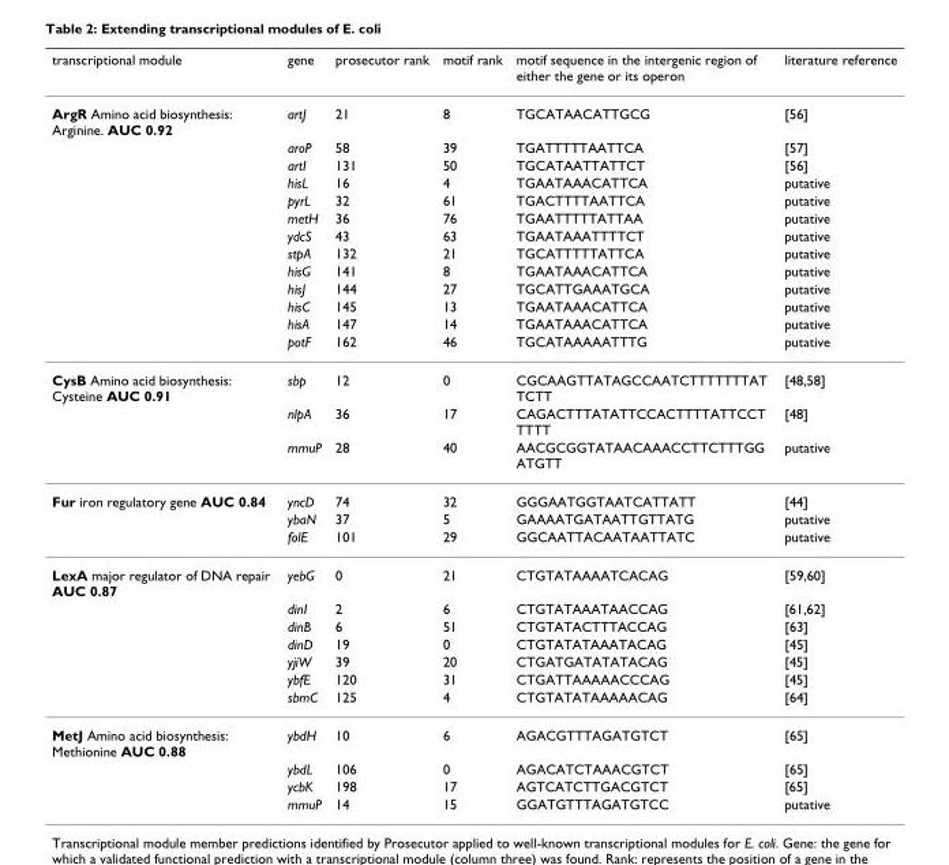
<table><thead><tr><td>transcriptional module</td><td>gene</td><td>prosecutor rank</td><td>motif rank</td><td>motif sequence in the intergenic region of either the gene or its operon</td><td>literature reference</td></tr></thead><tbody><tr><td rowspan="13">ArgR Amino acid biosynthesis: Arginine. AUC 0.92</td><td>artJ</td><td>21</td><td>8</td><td>TGCATAACATTGCG</td><td>[56]</td></tr><tr><td>aroP</td><td>58</td><td>39</td><td>TGATTTTTAATTCA</td><td>[57]</td></tr><tr><td>artI</td><td>131</td><td>50</td><td>TGCATAATTATTCT</td><td>[56]</td></tr><tr><td>hisL</td><td>16</td><td>4</td><td>TGAATAAACATTCA</td><td>putative</td></tr><tr><td>pyrL</td><td>32</td><td>61</td><td>TGACTTTTAATTCA</td><td>putative</td></tr><tr><td>metH</td><td>36</td><td>76</td><td>TGAATTTTTATTAA</td><td>putative</td></tr><tr><td>ydcS</td><td>43</td><td>63</td><td>TGAATAAATTTTCT</td><td>putative</td></tr><tr><td>stpA</td><td>132</td><td>21</td><td>TGCATTTTTATTCA</td><td>putative</td></tr><tr><td>hisG</td><td>141</td><td>8</td><td>TGAATAAACATTCA</td><td>putative</td></tr><tr><td>hisJ</td><td>144</td><td>27</td><td>TGCATTGAAATGCA</td><td>putative</td></tr><tr><td>hisC</td><td>145</td><td>13</td><td>TGAATAAACATTCA</td><td>putative</td></tr><tr><td>hisA</td><td>147</td><td>14</td><td>TGAATAAACATTCA</td><td>putative</td></tr><tr><td>potF</td><td>162</td><td>46</td><td>TGCATAAAAATTTG</td><td>putative</td></tr><tr><td rowspan="3">CysB Amino acid biosynthesis: Cysteine AUC 0.91</td><td>sbp</td><td>12</td><td>0</td><td>CGCAAGTTATAGCCAATCTTTTTTTAT TCTT</td><td>[48,58]</td></tr><tr><td>nlpA</td><td>36</td><td>17</td><td>CAGACTTTATATTCCACTTTTATTCCT TTTT</td><td>[48]</td></tr><tr><td>mmuP</td><td>28</td><td>40</td><td>AACGCGGTATAACAAACCTTCTTTGG ATGTT</td><td>putative</td></tr><tr><td rowspan="3">Fur iron regulatory gene AUC 0.84</td><td>yncD</td><td>74</td><td>32</td><td>GGGAATGGTAATCATTATT</td><td>[44]</td></tr><tr><td>ybaN</td><td>37</td><td>5</td><td>GAAAATGATAATTGTTATG</td><td>putative</td></tr><tr><td>folE</td><td>101</td><td>29</td><td>GGCAATTACAATAATTATC</td><td>putative</td></tr><tr><td rowspan="7">LexA major regulator of DNA repair AUC 0.87</td><td>yebG</td><td>0</td><td>21</td><td>CTGTATAAAATCACAG</td><td>[59,60]</td></tr><tr><td>dinI</td><td>2</td><td>6</td><td>CTGTATAAATAACCAG</td><td>[61,62]</td></tr><tr><td>dinB</td><td>6</td><td>51</td><td>CTGTATACTTTACCAG</td><td>[63]</td></tr><tr><td>dinD</td><td>19</td><td>0</td><td>CTGTATATAAATACAG</td><td>[45]</td></tr><tr><td>yjiW</td><td>39</td><td>20</td><td>CTGATGATATATACAG</td><td>[45]</td></tr><tr><td>ybfE</td><td>120</td><td>31</td><td>CTGATTAAAAACCCAG</td><td>[45]</td></tr><tr><td>sbmC</td><td>125</td><td>4</td><td>CTGTATATAAAAACAG</td><td>[64]</td></tr><tr><td rowspan="4">MetJ Amino acid biosynthesis: Methionine AUC 0.88</td><td>ybdH</td><td>10</td><td>6</td><td>AGACGTTTAGATGTCT</td><td>[65]</td></tr><tr><td>ybdL</td><td>106</td><td>0</td><td>AGACATCTAAACGTCT</td><td>[65]</td></tr><tr><td>ycbK</td><td>198</td><td>17</td><td>AGTCATCTTGACGTCT</td><td>[65]</td></tr><tr><td>mmuP</td><td>14</td><td>15</td><td>GGATGTTTAGATGTCC</td><td>putative</td></tr></tbody></table>